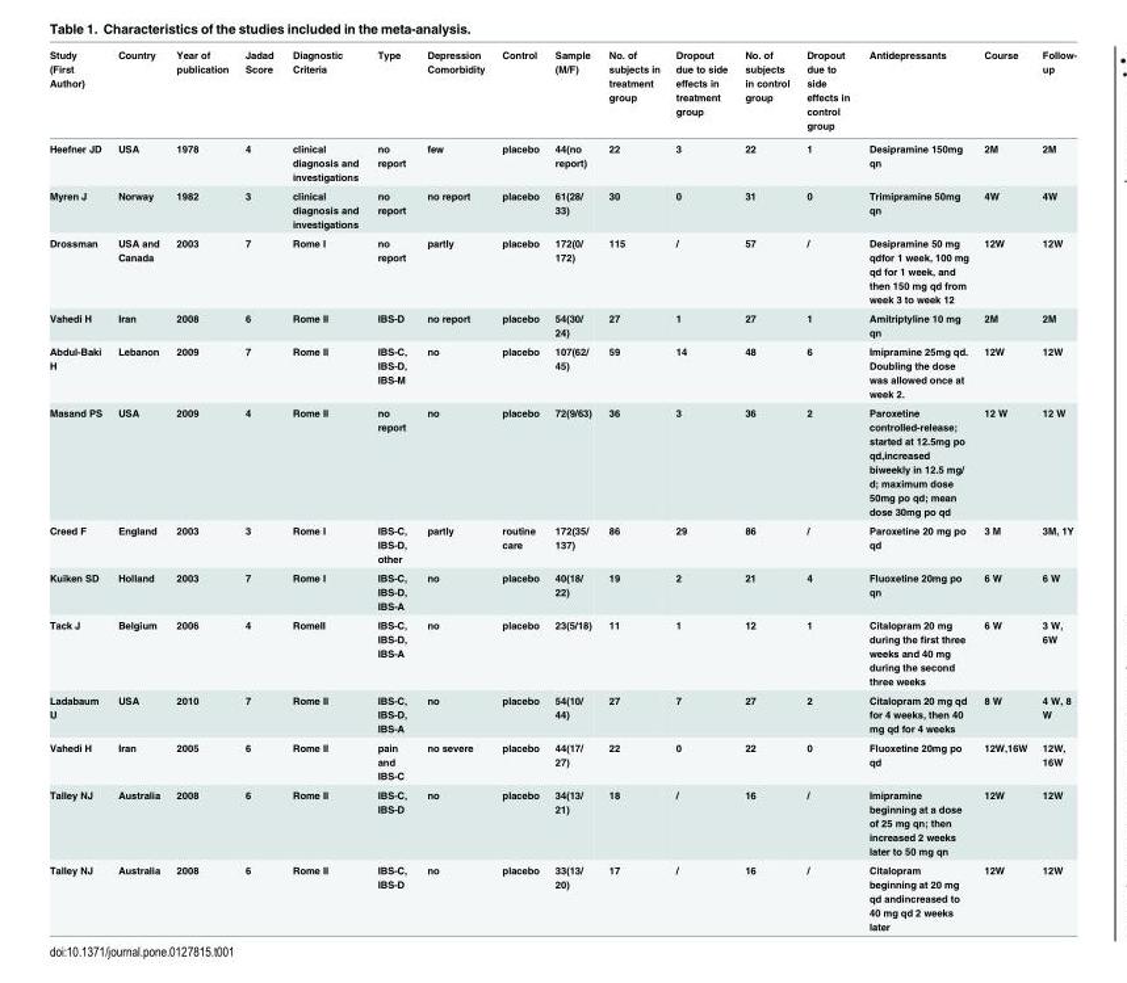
<table><thead><tr><td>Study (First Author)</td><td>Country</td><td>Year of publication</td><td>Jadad Score</td><td>Diagnostic Criteria</td><td>Type</td><td>Depression Comorbidity</td><td>Control</td><td>Sample (M/F)</td><td>No. of subjects in treatment group</td><td>Dropout due to side effects in treatment group</td><td>No. of subjects in control group</td><td>Dropout due to side effects in control group</td><td>Antidepressants</td><td>Course</td><td>Follow- up</td></tr></thead><tbody><tr><td>Heefner JD</td><td>USA</td><td>1978</td><td>4</td><td>clinical diagnosis and investigations</td><td>no report</td><td>few</td><td>placebo</td><td>44(no report)</td><td>22</td><td>3</td><td>22</td><td>1</td><td>Desipramine 150mg qn</td><td>2M</td><td>2M</td></tr><tr><td>Myren J</td><td>Norway</td><td>1982</td><td>3</td><td>clinical diagnosis and investigations</td><td>no report</td><td>no report</td><td>placebo</td><td>61(28/ 33)</td><td>30</td><td>0</td><td>31</td><td>0</td><td>Trimipramine 50mg qn</td><td>4W</td><td>4W</td></tr><tr><td>Drossman</td><td>USA and Canada</td><td>2003</td><td>7</td><td>Rome I</td><td>no report</td><td>partly</td><td>placebo</td><td>172(0/ 172)</td><td>115</td><td>/</td><td>57</td><td>/</td><td>Desipramine 50 mg qdfor 1 week, 100 mg qd for 1 week, and then 150 mg qd from week 3 to week 12</td><td>12W</td><td>12W</td></tr><tr><td>Vahedi H</td><td>Iran</td><td>2008</td><td>6</td><td>Rome II</td><td>IBS-D</td><td>no report</td><td>placebo</td><td>54(30/ 24)</td><td>27</td><td>1</td><td>27</td><td>1</td><td>Amitriptyline 10 mg qn</td><td>2M</td><td>2M</td></tr><tr><td>Abdul-Baki H</td><td>Lebanon</td><td>2009</td><td>7</td><td>Rome II</td><td>IBS-C, IBS-D, IBS-M</td><td>no</td><td>placebo</td><td>107(62/ 45)</td><td>59</td><td>14</td><td>48</td><td>6</td><td>Imipramine 25mg qd. Doubling the dose was allowed once at week 2.</td><td>12W</td><td>12W</td></tr><tr><td>Masand PS</td><td>USA</td><td>2009</td><td>4</td><td>Rome II</td><td>no report</td><td>no</td><td>placebo</td><td>72(9/63)</td><td>36</td><td>3</td><td>36</td><td>2</td><td>Paroxetine controlled-release; started at 12.5mg po qd,increased biweekly in 12.5 mg/ d; maximum dose 50mg po qd; mean dose 30mg po qd</td><td>12 W</td><td>12 W</td></tr><tr><td>Creed F</td><td>England</td><td>2003</td><td>3</td><td>Rome I</td><td>IBS-C, IBS-D, other</td><td>partly</td><td>routine care</td><td>172(35/ 137)</td><td>86</td><td>29</td><td>86</td><td>/</td><td>Paroxetine 20 mg po qd</td><td>3 M</td><td>3M, 1Y</td></tr><tr><td>Kuiken SD</td><td>Holland</td><td>2003</td><td>7</td><td>Rome I</td><td>IBS-C, IBS-D, IBS-A</td><td>no</td><td>placebo</td><td>40(18/ 22)</td><td>19</td><td>2</td><td>21</td><td>4</td><td>Fluoxetine 20mg po qn</td><td>6 W</td><td>6 W</td></tr><tr><td>Tack J</td><td>Belgium</td><td>2006</td><td>4</td><td>RomeII</td><td>IBS-C, IBS-D, IBS-A</td><td>no</td><td>placebo</td><td>23(5/18)</td><td>11</td><td>1</td><td>12</td><td>1</td><td>Citalopram 20 mg during the first three weeks and 40 mg during the second three weeks</td><td>6 W</td><td>3 W, 6W</td></tr><tr><td>Ladabaum U</td><td>USA</td><td>2010</td><td>7</td><td>Rome II</td><td>IBS-C, IBS-D, IBS-A</td><td>no</td><td>placebo</td><td>54(10/ 44)</td><td>27</td><td>7</td><td>27</td><td>2</td><td>Citalopram 20 mg qd for 4 weeks, then 40 mg qd for 4 weeks</td><td>8 W</td><td>4 W, 8 W</td></tr><tr><td>Vahedi H</td><td>Iran</td><td>2005</td><td>6</td><td>Rome II</td><td>pain and IBS-C</td><td>no severe</td><td>placebo</td><td>44(17/ 27)</td><td>22</td><td>0</td><td>22</td><td>0</td><td>Fluoxetine 20mg po qd</td><td>12W,16W</td><td>12W, 16W</td></tr><tr><td>Talley NJ</td><td>Australia</td><td>2008</td><td>6</td><td>Rome II</td><td>IBS-C, IBS-D</td><td>no</td><td>placebo</td><td>34(13/ 21)</td><td>18</td><td>/</td><td>16</td><td>/</td><td>Imipramine beginning at a dose of 25 mg qn; then increased 2 weeks later to 50 mg qn</td><td>12W</td><td>12W</td></tr><tr><td>Talley NJ</td><td>Australia</td><td>2008</td><td>6</td><td>Rome II</td><td>IBS-C, IBS-D</td><td>no</td><td>placebo</td><td>33(13/ 20)</td><td>17</td><td>/</td><td>16</td><td>/</td><td>Citalopram beginning at 20 mg qd andincreased to 40 mg qd 2 weeks later</td><td>12W</td><td>12W</td></tr></tbody></table>